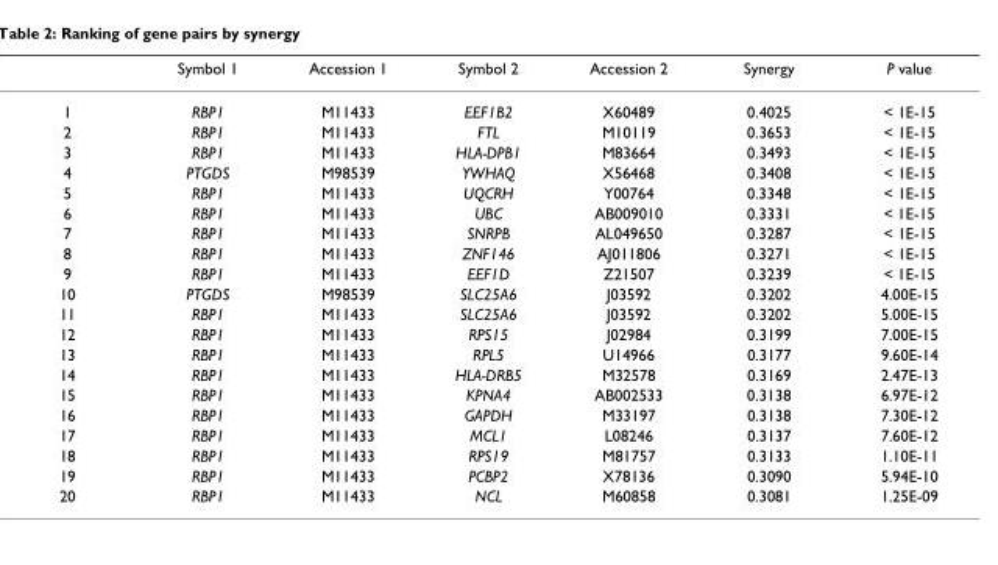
<table><thead><tr><td></td><td>Symbol 1</td><td>Accession 1</td><td>Symbol 2</td><td>Accession 2</td><td>Synergy</td><td>P value</td></tr></thead><tbody><tr><td>1</td><td>RBP1</td><td>M11433</td><td>EEF1B2</td><td>X60489</td><td>0.4025</td><td>&lt; 1E-15</td></tr><tr><td>2</td><td>RBP1</td><td>M11433</td><td>FTL</td><td>M10119</td><td>0.3653</td><td>&lt; 1E-15</td></tr><tr><td>3</td><td>RBP1</td><td>M11433</td><td>HLA-DPB1</td><td>M83664</td><td>0.3493</td><td>&lt; 1E-15</td></tr><tr><td>4</td><td>PTGDS</td><td>M98539</td><td>YWHAQ</td><td>X56468</td><td>0.3408</td><td>&lt; 1E-15</td></tr><tr><td>5</td><td>RBP1</td><td>M11433</td><td>UQCRH</td><td>Y00764</td><td>0.3348</td><td>&lt; 1E-15</td></tr><tr><td>6</td><td>RBP1</td><td>M11433</td><td>UBC</td><td>AB009010</td><td>0.3331</td><td>&lt; 1E-15</td></tr><tr><td>7</td><td>RBP1</td><td>M11433</td><td>SNRPB</td><td>AL049650</td><td>0.3287</td><td>&lt; 1E-15</td></tr><tr><td>8</td><td>RBP1</td><td>M11433</td><td>ZNF146</td><td>AJ011806</td><td>0.3271</td><td>&lt; 1E-15</td></tr><tr><td>9</td><td>RBP1</td><td>M11433</td><td>EEF1D</td><td>Z21507</td><td>0.3239</td><td>&lt; 1E-15</td></tr><tr><td>10</td><td>PTGDS</td><td>M98539</td><td>SLC25A6</td><td>J03592</td><td>0.3202</td><td>4.00E-15</td></tr><tr><td>11</td><td>RBP1</td><td>M11433</td><td>SLC25A6</td><td>J03592</td><td>0.3202</td><td>5.00E-15</td></tr><tr><td>12</td><td>RBP1</td><td>M11433</td><td>RPS15</td><td>J02984</td><td>0.3199</td><td>7.00E-15</td></tr><tr><td>13</td><td>RBP1</td><td>M11433</td><td>RPL5</td><td>U14966</td><td>0.3177</td><td>9.60E-14</td></tr><tr><td>14</td><td>RBP1</td><td>M11433</td><td>HLA-DRB5</td><td>M32578</td><td>0.3169</td><td>2.47E-13</td></tr><tr><td>15</td><td>RBP1</td><td>M11433</td><td>KPNA4</td><td>AB002533</td><td>0.3138</td><td>6.97E-12</td></tr><tr><td>16</td><td>RBP1</td><td>M11433</td><td>GAPDH</td><td>M33197</td><td>0.3138</td><td>7.30E-12</td></tr><tr><td>17</td><td>RBP1</td><td>M11433</td><td>MCL1</td><td>L08246</td><td>0.3137</td><td>7.60E-12</td></tr><tr><td>18</td><td>RBP1</td><td>M11433</td><td>RPS19</td><td>M81757</td><td>0.3133</td><td>1.10E-11</td></tr><tr><td>19</td><td>RBP1</td><td>M11433</td><td>PCBP2</td><td>X78136</td><td>0.3090</td><td>5.94E-10</td></tr><tr><td>20</td><td>RBP1</td><td>M11433</td><td>NCL</td><td>M60858</td><td>0.3081</td><td>1.25E-09</td></tr></tbody></table>